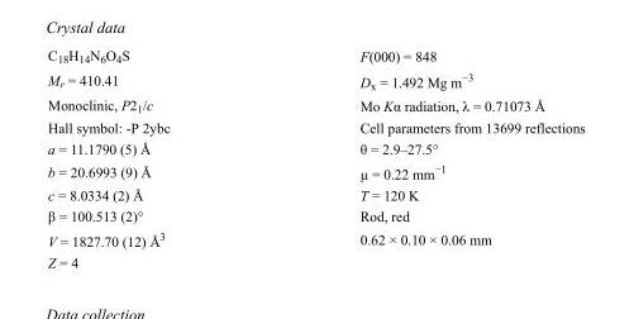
<table><tbody><tr><td>C<sub>18</sub>H<sub>14</sub>N<sub>6</sub>O<sub>4</sub>S</td><td>F(000) = 848</td></tr><tr><td>M<sub>r</sub> = 410.41</td><td>D<sub>x</sub> = 1.492 Mg m<sup>−3</sup></td></tr><tr><td>Monoclinic, P2<sub>1</sub>/c</td><td>Mo Kα radiation, λ = 0.71073 Å</td></tr><tr><td>Hall symbol: -P 2ybc</td><td>Cell parameters from 13699 reflections</td></tr><tr><td>a = 11.1790 (5) Å</td><td>θ = 2.9–27.5°</td></tr><tr><td>b = 20.6993 (9) Å</td><td>µ = 0.22 mm<sup>−1</sup></td></tr><tr><td>c = 8.0334 (2) Å</td><td>T = 120 K</td></tr><tr><td>β = 100.513 (2)°</td><td>Rod, red</td></tr><tr><td>V = 1827.70 (12) Å<sup>3</sup></td><td>0.62 × 0.10 × 0.06 mm</td></tr><tr><td>Z = 4</td><td></td></tr></tbody></table>